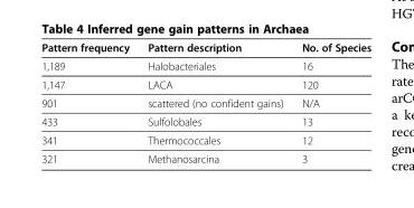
<table><thead><tr><td>Pattern frequency</td><td>Pattern description</td><td>No. of Species</td></tr></thead><tbody><tr><td>1,189</td><td>Halobacteriales</td><td>16</td></tr><tr><td>1,147</td><td>LACA</td><td>120</td></tr><tr><td>901</td><td>scattered (no confident gains)</td><td>N/A</td></tr><tr><td>433</td><td>Sulfolobales</td><td>13</td></tr><tr><td>341</td><td>Thermococcales</td><td>12</td></tr><tr><td>321</td><td>Methanosarcina</td><td>3</td></tr></tbody></table>